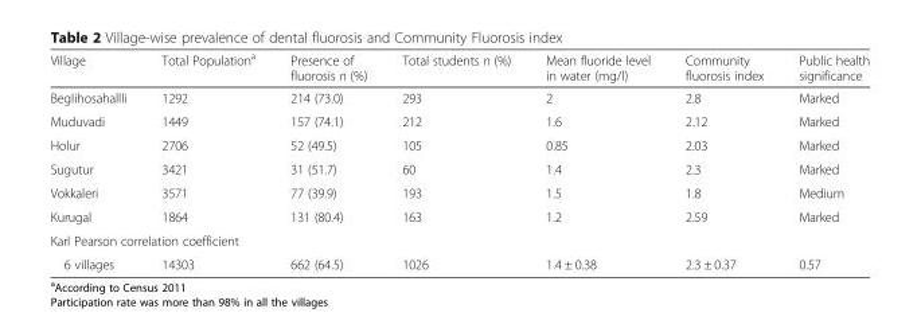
<table><thead><tr><td>Village</td><td>Total Population<sup>a</sup></td><td>Presence of fluorosis n (%)</td><td>Total students n (%)</td><td>Mean fluoride level in water (mg/l)</td><td>Community fluorosis index</td><td>Public health significance</td></tr></thead><tbody><tr><td>Beglihosahallli</td><td>1292</td><td>214 (73.0)</td><td>293</td><td>2</td><td>2.8</td><td>Marked</td></tr><tr><td>Muduvadi</td><td>1449</td><td>157 (74.1)</td><td>212</td><td>1.6</td><td>2.12</td><td>Marked</td></tr><tr><td>Holur</td><td>2706</td><td>52 (49.5)</td><td>105</td><td>0.85</td><td>2.03</td><td>Marked</td></tr><tr><td>Sugutur</td><td>3421</td><td>31 (51.7)</td><td>60</td><td>1.4</td><td>2.3</td><td>Marked</td></tr><tr><td>Vokkaleri</td><td>3571</td><td>77 (39.9)</td><td>193</td><td>1.5</td><td>1.8</td><td>Medium</td></tr><tr><td>Kurugal</td><td>1864</td><td>131 (80.4)</td><td>163</td><td>1.2</td><td>2.59</td><td>Marked</td></tr><tr><td colspan="7">Karl Pearson correlation coefficient</td></tr><tr><td>6 villages</td><td>14303</td><td>662 (64.5)</td><td>1026</td><td>1.4 ± 0.38</td><td>2.3 ± 0.37</td><td>0.57</td></tr></tbody></table>